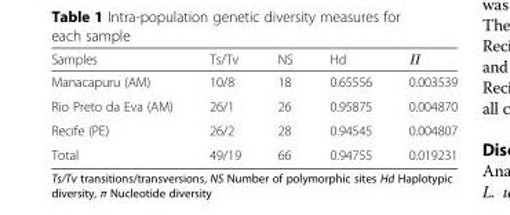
<table><thead><tr><td>Samples</td><td>Ts/Tv</td><td>NS</td><td>Hd</td><td>Π</td></tr></thead><tbody><tr><td>Manacapuru (AM)</td><td>10/8</td><td>18</td><td>0.65556</td><td>0.003539</td></tr><tr><td>Rio Preto da Eva (AM)</td><td>26/1</td><td>26</td><td>0.95875</td><td>0.004870</td></tr><tr><td>Recife (PE)</td><td>26/2</td><td>28</td><td>0.94545</td><td>0.004807</td></tr><tr><td>Total</td><td>49/19</td><td>66</td><td>0.94755</td><td>0.019231</td></tr></tbody></table>